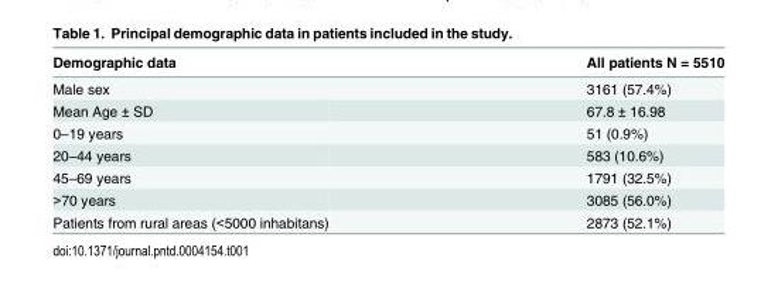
<table><thead><tr><td>Demographic data</td><td>All patients N = 5510</td></tr></thead><tbody><tr><td>Male sex</td><td>3161 (57.4%)</td></tr><tr><td>Mean Age ± SD</td><td>67.8 ± 16.98</td></tr><tr><td>0–19 years</td><td>51 (0.9%)</td></tr><tr><td>20–44 years</td><td>583 (10.6%)</td></tr><tr><td>45–69 years</td><td>1791 (32.5%)</td></tr><tr><td>&gt;70 years</td><td>3085 (56.0%)</td></tr><tr><td>Patients from rural areas (&lt;5000 inhabitans)</td><td>2873 (52.1%)</td></tr></tbody></table>